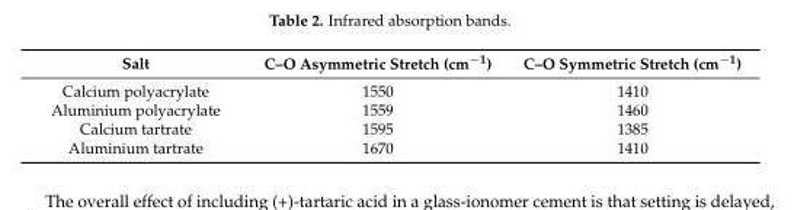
<table><thead><tr><td>Salt</td><td>C–O Asymmetric Stretch (cm<sup>−1</sup>)</td><td>C–O Symmetric Stretch (cm<sup>−1</sup>)</td></tr></thead><tbody><tr><td>Calcium polyacrylate</td><td>1550</td><td>1410</td></tr><tr><td>Aluminium polyacrylate</td><td>1559</td><td>1460</td></tr><tr><td>Calcium tartrate</td><td>1595</td><td>1385</td></tr><tr><td>Aluminium tartrate</td><td>1670</td><td>1410</td></tr></tbody></table>